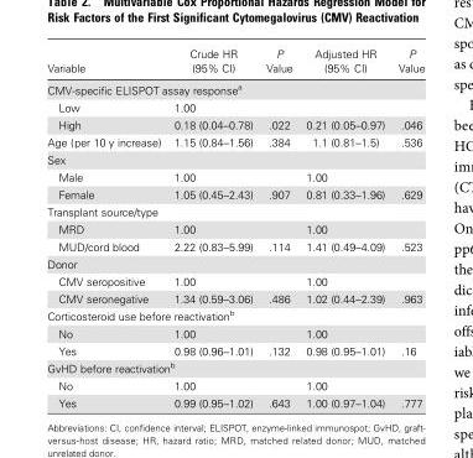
<table><thead><tr><td>Variable</td><td>Crude HR (95% CI)</td><td>P Value</td><td>Adjusted HR (95% CI)</td><td>P Value</td></tr></thead><tbody><tr><td colspan="5">CMV-specific ELISPOT assay response<sup>a</sup></td></tr><tr><td>Low</td><td>1.00</td><td></td><td></td><td></td></tr><tr><td>High</td><td>0.18 (0.04–0.78)</td><td>.022</td><td>0.21 (0.05–0.97)</td><td>.046</td></tr><tr><td>Age (per 10 y increase)</td><td>1.15 (0.84–1.56)</td><td>.384</td><td>1.1 (0.81–1.5)</td><td>.536</td></tr><tr><td colspan="5">Sex</td></tr><tr><td>Male</td><td>1.00</td><td></td><td>1.00</td><td></td></tr><tr><td>Female</td><td>1.05 (0.45–2.43)</td><td>.907</td><td>0.81 (0.33–1.96)</td><td>.629</td></tr><tr><td colspan="5">Transplant source/type</td></tr><tr><td>MRD</td><td>1.00</td><td></td><td>1.00</td><td></td></tr><tr><td>MUD/cord blood</td><td>2.22 (0.83–5.99)</td><td>.114</td><td>1.41 (0.49–4.09)</td><td>.523</td></tr><tr><td colspan="5">Donor</td></tr><tr><td>CMV seropositive</td><td>1.00</td><td></td><td>1.00</td><td></td></tr><tr><td>CMV seronegative</td><td>1.34 (0.59–3.06)</td><td>.486</td><td>1.02 (0.44–2.39)</td><td>.963</td></tr><tr><td colspan="5">Corticosteroid use before reactivation<sup>b</sup></td></tr><tr><td>No</td><td>1.00</td><td></td><td>1.00</td><td></td></tr><tr><td>Yes</td><td>0.98 (0.96–1.01)</td><td>.132</td><td>0.98 (0.95–1.01)</td><td>.16</td></tr><tr><td colspan="5">GvHD before reactivation<sup>b</sup></td></tr><tr><td>No</td><td>1.00</td><td></td><td>1.00</td><td></td></tr><tr><td>Yes</td><td>0.99 (0.95–1.02)</td><td>.643</td><td>1.00 (0.97–1.04)</td><td>.777</td></tr></tbody></table>